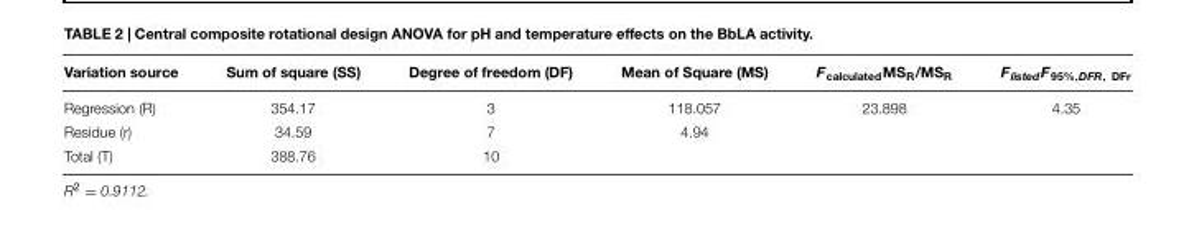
<table><thead><tr><td>Variation source</td><td>Sum of square (SS)</td><td>Degree of freedom (DF)</td><td>Mean of Square (MS)</td><td>F<sub>calculated</sub>MS<sub>R</sub>/MS<sub>R</sub></td><td>F<sub>listed</sub>F<sub>95%,DFR</sub>, <sub>DFr</sub></td></tr></thead><tbody><tr><td>Regression (R)</td><td>354.17</td><td>3</td><td>118.057</td><td>23.898</td><td>4.35</td></tr><tr><td>Residue (r)</td><td>34.59</td><td>7</td><td>4.94</td><td></td><td></td></tr><tr><td>Total (T)</td><td>388.76</td><td>10</td><td></td><td></td><td></td></tr></tbody></table>